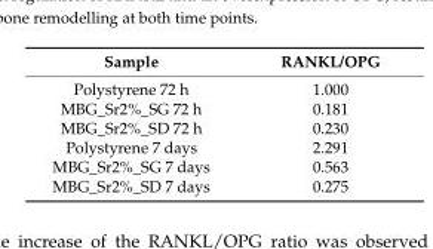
<table><thead><tr><td>Sample</td><td>RANKL/OPG</td></tr></thead><tbody><tr><td>Polystyrene 72 h</td><td>1.000</td></tr><tr><td>MBG_Sr2%_SG 72 h</td><td>0.181</td></tr><tr><td>MBG_Sr2%_SD 72 h</td><td>0.230</td></tr><tr><td>Polystyrene 7 days</td><td>2.291</td></tr><tr><td>MBG_Sr2%_SG 7 days</td><td>0.563</td></tr><tr><td>MBG_Sr2%_SD 7 days</td><td>0.275</td></tr></tbody></table>